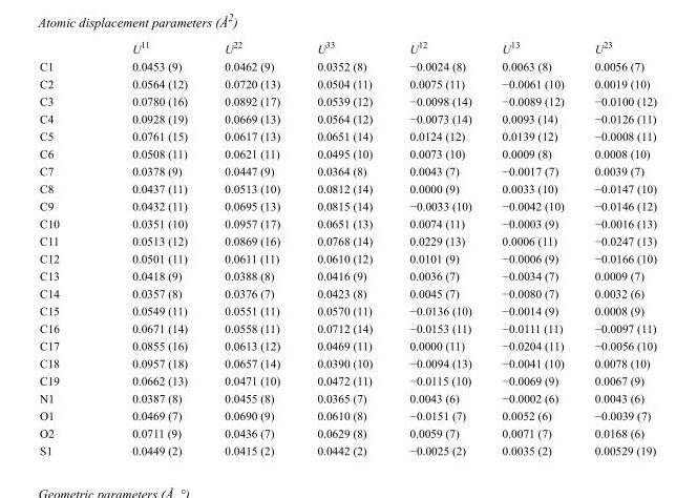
<table><thead><tr><td></td><td>U<sup>11</sup></td><td>U<sup>22</sup></td><td>U<sup>33</sup></td><td>U<sup>12</sup></td><td>U<sup>13</sup></td><td>U<sup>23</sup></td></tr></thead><tbody><tr><td>C1</td><td>0.0453 (9)</td><td>0.0462 (9)</td><td>0.0352 (8)</td><td>−0.0024 (8)</td><td>0.0063 (8)</td><td>0.0056 (7)</td></tr><tr><td>C2</td><td>0.0564 (12)</td><td>0.0720 (13)</td><td>0.0504 (11)</td><td>0.0075 (11)</td><td>−0.0061 (10)</td><td>0.0019 (10)</td></tr><tr><td>C3</td><td>0.0780 (16)</td><td>0.0892 (17)</td><td>0.0539 (12)</td><td>−0.0098 (14)</td><td>−0.0089 (12)</td><td>−0.0100 (12)</td></tr><tr><td>C4</td><td>0.0928 (19)</td><td>0.0669 (13)</td><td>0.0564 (12)</td><td>−0.0073 (14)</td><td>0.0093 (14)</td><td>−0.0126 (11)</td></tr><tr><td>C5</td><td>0.0761 (15)</td><td>0.0617 (13)</td><td>0.0651 (14)</td><td>0.0124 (12)</td><td>0.0139 (12)</td><td>−0.0008 (11)</td></tr><tr><td>C6</td><td>0.0508 (11)</td><td>0.0621 (11)</td><td>0.0495 (10)</td><td>0.0073 (10)</td><td>0.0009 (8)</td><td>0.0008 (10)</td></tr><tr><td>C7</td><td>0.0378 (9)</td><td>0.0447 (9)</td><td>0.0364 (8)</td><td>0.0043 (7)</td><td>−0.0017 (7)</td><td>0.0039 (7)</td></tr><tr><td>C8</td><td>0.0437 (11)</td><td>0.0513 (10)</td><td>0.0812 (14)</td><td>0.0000 (9)</td><td>0.0033 (10)</td><td>−0.0147 (10)</td></tr><tr><td>C9</td><td>0.0432 (11)</td><td>0.0695 (13)</td><td>0.0815 (14)</td><td>−0.0033 (10)</td><td>−0.0042 (10)</td><td>−0.0146 (12)</td></tr><tr><td>C10</td><td>0.0351 (10)</td><td>0.0957 (17)</td><td>0.0651 (13)</td><td>0.0074 (11)</td><td>−0.0003 (9)</td><td>−0.0016 (13)</td></tr><tr><td>C11</td><td>0.0513 (12)</td><td>0.0869 (16)</td><td>0.0768 (14)</td><td>0.0229 (13)</td><td>0.0006 (11)</td><td>−0.0247 (13)</td></tr><tr><td>C12</td><td>0.0501 (11)</td><td>0.0611 (11)</td><td>0.0610 (12)</td><td>0.0101 (9)</td><td>−0.0006 (9)</td><td>−0.0166 (10)</td></tr><tr><td>C13</td><td>0.0418 (9)</td><td>0.0388 (8)</td><td>0.0416 (9)</td><td>0.0036 (7)</td><td>−0.0034 (7)</td><td>0.0009 (7)</td></tr><tr><td>C14</td><td>0.0357 (8)</td><td>0.0376 (7)</td><td>0.0423 (8)</td><td>0.0045 (7)</td><td>−0.0080 (7)</td><td>0.0032 (6)</td></tr><tr><td>C15</td><td>0.0549 (11)</td><td>0.0551 (11)</td><td>0.0570 (11)</td><td>−0.0136 (10)</td><td>−0.0014 (9)</td><td>0.0008 (9)</td></tr><tr><td>C16</td><td>0.0671 (14)</td><td>0.0558 (11)</td><td>0.0712 (14)</td><td>−0.0153 (11)</td><td>−0.0111 (11)</td><td>−0.0097 (11)</td></tr><tr><td>C17</td><td>0.0855 (16)</td><td>0.0613 (12)</td><td>0.0469 (11)</td><td>0.0000 (11)</td><td>−0.0204 (11)</td><td>−0.0056 (10)</td></tr><tr><td>C18</td><td>0.0957 (18)</td><td>0.0657 (14)</td><td>0.0390 (10)</td><td>−0.0094 (13)</td><td>−0.0041 (10)</td><td>0.0078 (10)</td></tr><tr><td>C19</td><td>0.0662 (13)</td><td>0.0471 (10)</td><td>0.0472 (11)</td><td>−0.0115 (10)</td><td>−0.0069 (9)</td><td>0.0067 (9)</td></tr><tr><td>N1</td><td>0.0387 (8)</td><td>0.0455 (8)</td><td>0.0365 (7)</td><td>0.0043 (6)</td><td>−0.0002 (6)</td><td>0.0043 (6)</td></tr><tr><td>O1</td><td>0.0469 (7)</td><td>0.0690 (9)</td><td>0.0610 (8)</td><td>−0.0151 (7)</td><td>0.0052 (6)</td><td>−0.0039 (7)</td></tr><tr><td>O2</td><td>0.0711 (9)</td><td>0.0436 (7)</td><td>0.0629 (8)</td><td>0.0059 (7)</td><td>0.0071 (7)</td><td>0.0168 (6)</td></tr><tr><td>S1</td><td>0.0449 (2)</td><td>0.0415 (2)</td><td>0.0442 (2)</td><td>−0.0025 (2)</td><td>0.0035 (2)</td><td>0.00529 (19)</td></tr></tbody></table>